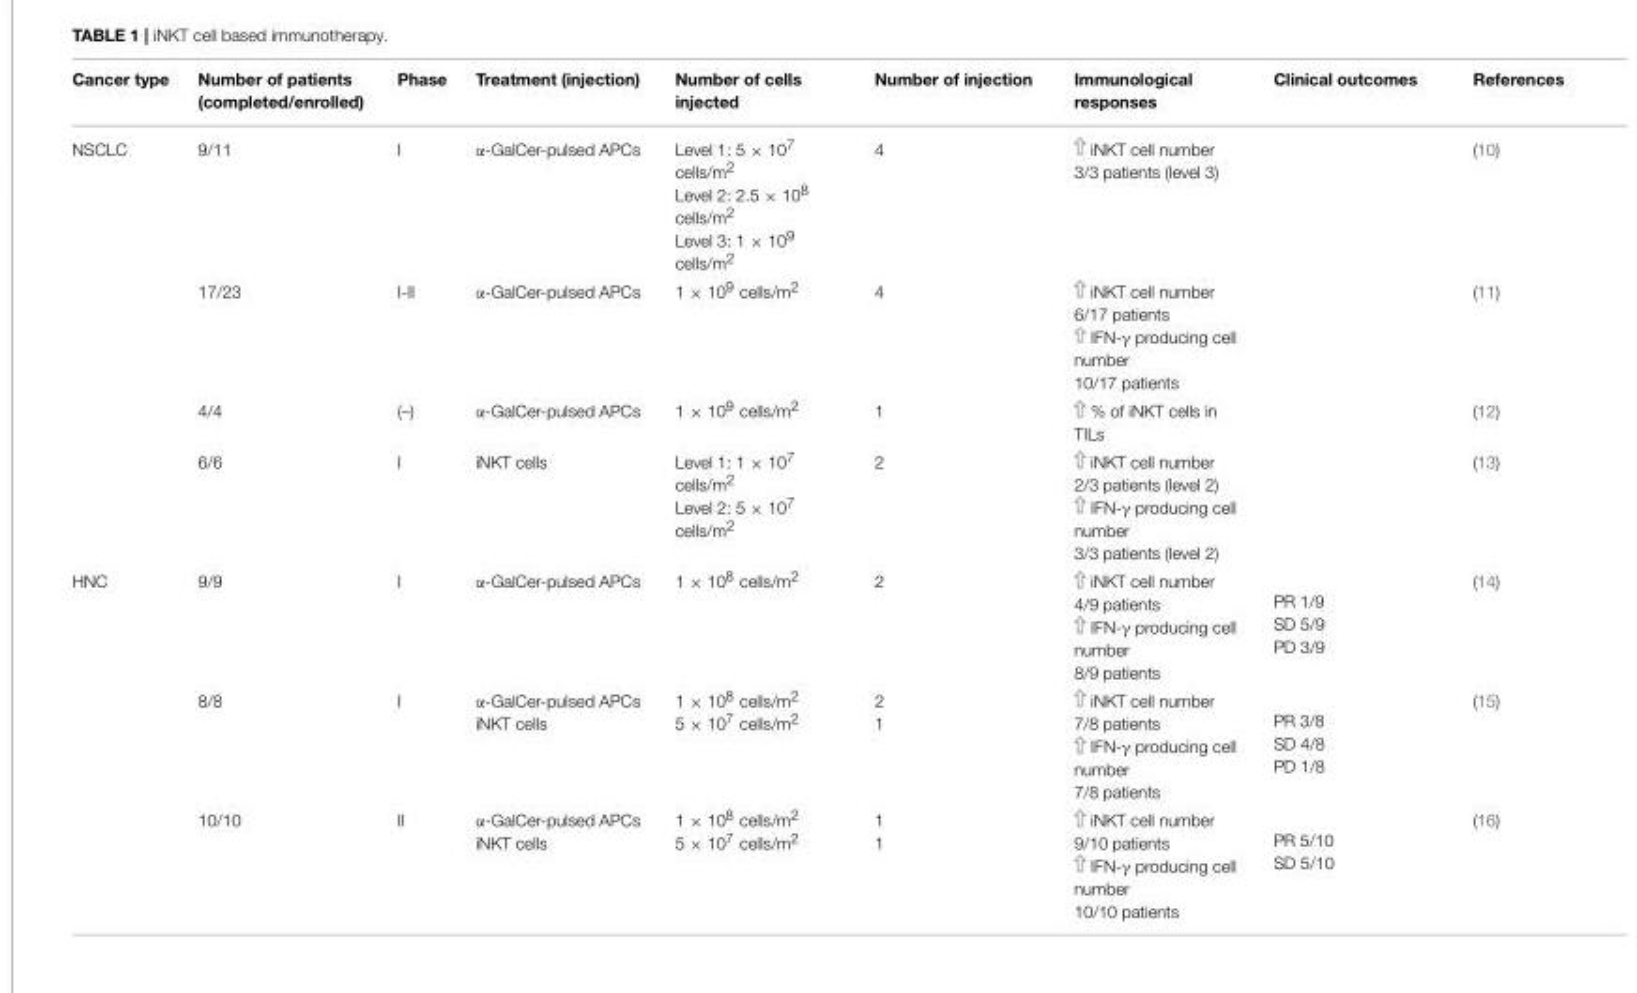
<table><thead><tr><td>Cancer type</td><td>Number of patients (completed/enrolled)</td><td>Phase</td><td>Treatment (injection)</td><td>Number of cells injected</td><td>Number of injection</td><td>Immunological responses</td><td>Clinical outcomes</td><td>References</td></tr></thead><tbody><tr><td rowspan="4">NSCLC</td><td>9/11</td><td>I</td><td>α-GalCer-pulsed APCs</td><td>Level 1: 5 × 10<sup>7</sup> cells/m<sup>2</sup> Level 2: 2.5 × 10<sup>8</sup> cells/m<sup>2</sup> Level 3: 1 × 10<sup>9</sup> cells/m<sup>2</sup></td><td>4</td><td>iNKT cell number 3/3 patients (level 3)</td><td></td><td>(10)</td></tr><tr><td>17/23</td><td>I-II</td><td>α-GalCer-pulsed APCs</td><td>1 × 10<sup>9</sup> cells/m<sup>2</sup></td><td>4</td><td>iNKT cell number 6/17 patients IFN-γ producing cell number 10/17 patients</td><td></td><td>(11)</td></tr><tr><td>4/4</td><td>(–)</td><td>α-GalCer-pulsed APCs</td><td>1 × 10<sup>9</sup> cells/m<sup>2</sup></td><td>1</td><td>% of iNKT cells in TILs</td><td></td><td>(12)</td></tr><tr><td>6/6</td><td>I</td><td>iNKT cells</td><td>Level 1: 1 × 10<sup>7</sup> cells/m<sup>2</sup> Level 2: 5 × 10<sup>7</sup> cells/m<sup>2</sup></td><td>2</td><td>iNKT cell number 2/3 patients (level 2) IFN-γ producing cell number 3/3 patients (level 2)</td><td></td><td>(13)</td></tr><tr><td rowspan="3">HNC</td><td>9/9</td><td>I</td><td>α-GalCer-pulsed APCs</td><td>1 × 10<sup>8</sup> cells/m<sup>2</sup></td><td>2</td><td>iNKT cell number 4/9 patients IFN-γ producing cell number 8/9 patients</td><td>PR 1/9 SD 5/9 PD 3/9</td><td>(14)</td></tr><tr><td>8/8</td><td>I</td><td>α-GalCer-pulsed APCs iNKT cells</td><td>1 × 10<sup>8</sup> cells/m<sup>2</sup> 5 × 10<sup>7</sup> cells/m<sup>2</sup></td><td>2 1</td><td>iNKT cell number 7/8 patients IFN-γ producing cell number 7/8 patients</td><td>PR 3/8 SD 4/8 PD 1/8</td><td>(15)</td></tr><tr><td>10/10</td><td>II</td><td>α-GalCer-pulsed APCs iNKT cells</td><td>1 × 10<sup>8</sup> cells/m<sup>2</sup> 5 × 10<sup>7</sup> cells/m<sup>2</sup></td><td>1 1</td><td>iNKT cell number 9/10 patients IFN-γ producing cell number 10/10 patients</td><td>PR 5/10 SD 5/10</td><td>(16)</td></tr></tbody></table>